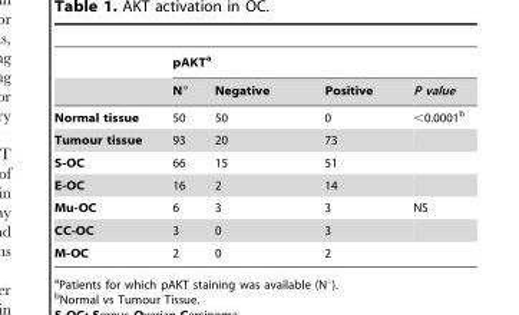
<table><thead><tr><td rowspan="2"></td><td colspan="4">pAKT<sup>a</sup></td></tr><tr><td>N°</td><td>Negative</td><td>Positive</td><td>P value</td></tr></thead><tbody><tr><td>Normal tissue</td><td>50</td><td>50</td><td>0</td><td>&lt;0.0001<sup>b</sup></td></tr><tr><td>Tumour tissue</td><td>93</td><td>20</td><td>73</td><td></td></tr><tr><td>S-OC</td><td>66</td><td>15</td><td>51</td><td></td></tr><tr><td>E-OC</td><td>16</td><td>2</td><td>14</td><td></td></tr><tr><td>Mu-OC</td><td>6</td><td>3</td><td>3</td><td>NS</td></tr><tr><td>CC-OC</td><td>3</td><td>0</td><td>3</td><td></td></tr><tr><td>M-OC</td><td>2</td><td>0</td><td>2</td><td></td></tr></tbody></table>